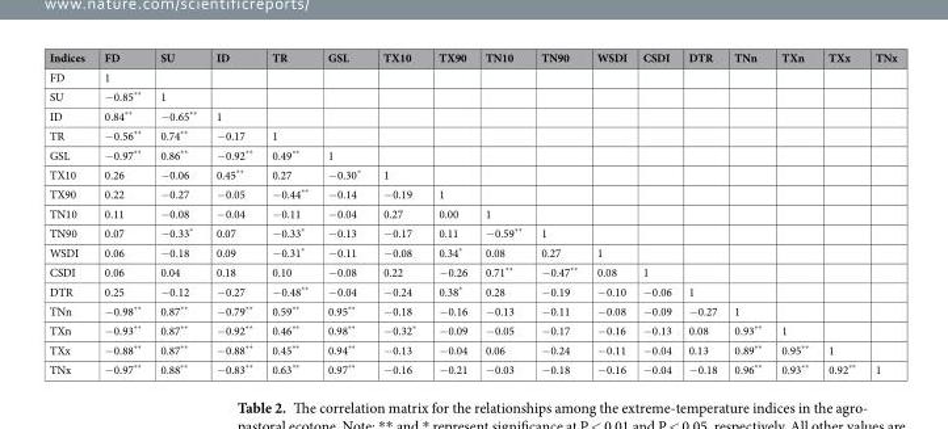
<table><thead><tr><td>Indices</td><td>FD</td><td>SU</td><td>ID</td><td>TR</td><td>GSL</td><td>TX10</td><td>TX90</td><td>TN10</td><td>TN90</td><td>WSDI</td><td>CSDI</td><td>DTR</td><td>TNn</td><td>TXn</td><td>TXx</td><td>TNx</td></tr></thead><tbody><tr><td>FD</td><td>1</td><td></td><td></td><td></td><td></td><td></td><td></td><td></td><td></td><td></td><td></td><td></td><td></td><td></td><td></td><td></td></tr><tr><td>SU</td><td>−0.85**</td><td>1</td><td></td><td></td><td></td><td></td><td></td><td></td><td></td><td></td><td></td><td></td><td></td><td></td><td></td><td></td></tr><tr><td>ID</td><td>0.84**</td><td>−0.65**</td><td>1</td><td></td><td></td><td></td><td></td><td></td><td></td><td></td><td></td><td></td><td></td><td></td><td></td><td></td></tr><tr><td>TR</td><td>−0.56**</td><td>0.74**</td><td>−0.17</td><td>1</td><td></td><td></td><td></td><td></td><td></td><td></td><td></td><td></td><td></td><td></td><td></td><td></td></tr><tr><td>GSL</td><td>−0.97**</td><td>0.86**</td><td>−0.92**</td><td>0.49**</td><td>1</td><td></td><td></td><td></td><td></td><td></td><td></td><td></td><td></td><td></td><td></td><td></td></tr><tr><td>TX10</td><td>0.26</td><td>−0.06</td><td>0.45**</td><td>0.27</td><td>−0.30*</td><td>1</td><td></td><td></td><td></td><td></td><td></td><td></td><td></td><td></td><td></td><td></td></tr><tr><td>TX90</td><td>0.22</td><td>−0.27</td><td>−0.05</td><td>−0.44**</td><td>−0.14</td><td>−0.19</td><td>1</td><td></td><td></td><td></td><td></td><td></td><td></td><td></td><td></td><td></td></tr><tr><td>TN10</td><td>0.11</td><td>−0.08</td><td>−0.04</td><td>−0.11</td><td>−0.04</td><td>0.27</td><td>0.00</td><td>1</td><td></td><td></td><td></td><td></td><td></td><td></td><td></td><td></td></tr><tr><td>TN90</td><td>0.07</td><td>−0.33*</td><td>0.07</td><td>−0.33*</td><td>−0.13</td><td>−0.17</td><td>0.11</td><td>−0.59**</td><td>1</td><td></td><td></td><td></td><td></td><td></td><td></td><td></td></tr><tr><td>WSDI</td><td>0.06</td><td>−0.18</td><td>0.09</td><td>−0.31*</td><td>−0.11</td><td>−0.08</td><td>0.34*</td><td>0.08</td><td>0.27</td><td>1</td><td></td><td></td><td></td><td></td><td></td><td></td></tr><tr><td>CSDI</td><td>0.06</td><td>0.04</td><td>0.18</td><td>0.10</td><td>−0.08</td><td>0.22</td><td>−0.26</td><td>0.71**</td><td>−0.47**</td><td>0.08</td><td>1</td><td></td><td></td><td></td><td></td><td></td></tr><tr><td>DTR</td><td>0.25</td><td>−0.12</td><td>−0.27</td><td>−0.48**</td><td>−0.04</td><td>−0.24</td><td>0.38*</td><td>0.28</td><td>−0.19</td><td>−0.10</td><td>−0.06</td><td>1</td><td></td><td></td><td></td><td></td></tr><tr><td>TNn</td><td>−0.98**</td><td>0.87**</td><td>−0.79**</td><td>0.59**</td><td>0.95**</td><td>−0.18</td><td>−0.16</td><td>−0.13</td><td>−0.11</td><td>−0.08</td><td>−0.09</td><td>−0.27</td><td>1</td><td></td><td></td><td></td></tr><tr><td>TXn</td><td>−0.93**</td><td>0.87**</td><td>−0.92**</td><td>0.46**</td><td>0.98**</td><td>−0.32*</td><td>−0.09</td><td>−0.05</td><td>−0.17</td><td>−0.16</td><td>−0.13</td><td>0.08</td><td>0.93**</td><td>1</td><td></td><td></td></tr><tr><td>TXx</td><td>−0.88**</td><td>0.87**</td><td>−0.88**</td><td>0.45**</td><td>0.94**</td><td>−0.13</td><td>−0.04</td><td>0.06</td><td>−0.24</td><td>−0.11</td><td>−0.04</td><td>0.13</td><td>0.89**</td><td>0.95**</td><td>1</td><td></td></tr><tr><td>TNx</td><td>−0.97**</td><td>0.88**</td><td>−0.83**</td><td>0.63**</td><td>0.97**</td><td>−0.16</td><td>−0.21</td><td>−0.03</td><td>−0.18</td><td>−0.16</td><td>−0.04</td><td>−0.18</td><td>0.96**</td><td>0.93**</td><td>0.92**</td><td>1</td></tr></tbody></table>